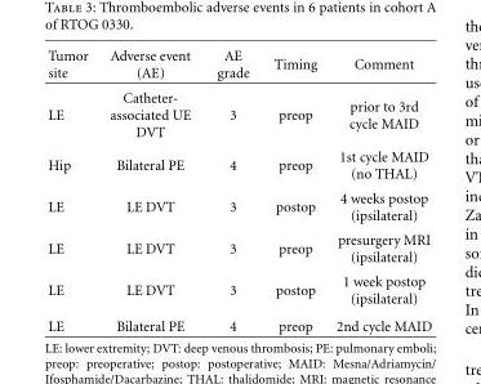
<table><thead><tr><td>Tumor site</td><td>Adverse event (AE)</td><td>AE grade</td><td>Timing</td><td>Comment</td></tr></thead><tbody><tr><td>LE</td><td>Catheter- associated UE DVT</td><td>3</td><td>preop</td><td>prior to 3rd cycle MAID</td></tr><tr><td>Hip</td><td>Bilateral PE</td><td>4</td><td>preop</td><td>1st cycle MAID (no THAL)</td></tr><tr><td>LE</td><td>LE DVT</td><td>3</td><td>postop</td><td>4 weeks postop (ipsilateral)</td></tr><tr><td>LE</td><td>LE DVT</td><td>3</td><td>preop</td><td>presurgery MRI (ipsilateral)</td></tr><tr><td>LE</td><td>LE DVT</td><td>3</td><td>postop</td><td>1 week postop (ipsilateral)</td></tr><tr><td>LE</td><td>Bilateral PE</td><td>4</td><td>preop</td><td>2nd cycle MAID</td></tr></tbody></table>